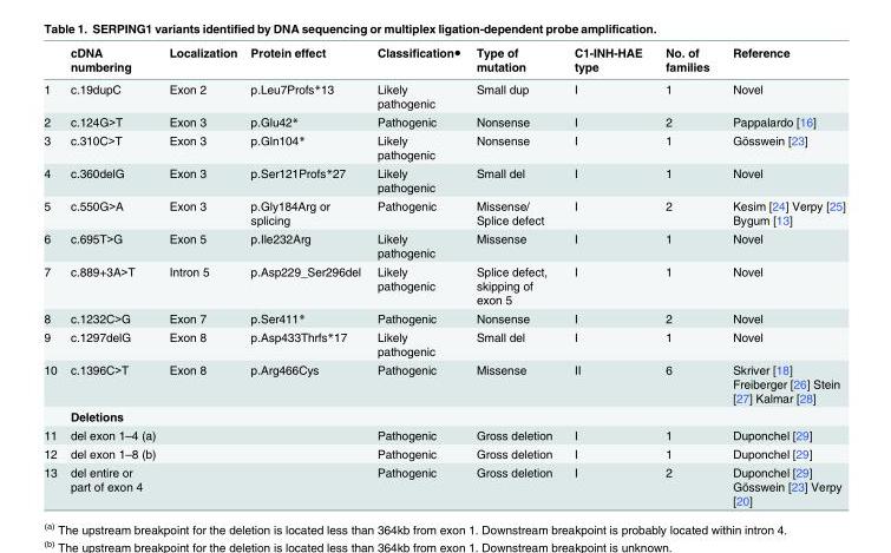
<table><thead><tr><td></td><td>cDNA numbering</td><td>Localization</td><td>Protein effect</td><td>Classification●</td><td>Type of mutation</td><td>C1-INH-HAE type</td><td>No. of families</td><td>Reference</td></tr></thead><tbody><tr><td>1</td><td>c.19dupC</td><td>Exon 2</td><td>p.Leu7Profs*13</td><td>Likely pathogenic</td><td>Small dup</td><td>I</td><td>1</td><td>Novel</td></tr><tr><td>2</td><td>c.124G&gt;T</td><td>Exon 3</td><td>p.Glu42*</td><td>Pathogenic</td><td>Nonsense</td><td>I</td><td>2</td><td>Pappalardo [16]</td></tr><tr><td>3</td><td>c.310C&gt;T</td><td>Exon 3</td><td>p.Gln104*</td><td>Likely pathogenic</td><td>Nonsense</td><td>I</td><td>1</td><td>Gösswein [23]</td></tr><tr><td>4</td><td>c.360delG</td><td>Exon 3</td><td>p.Ser121Profs*27</td><td>Likely pathogenic</td><td>Small del</td><td>I</td><td>1</td><td>Novel</td></tr><tr><td>5</td><td>c.550G&gt;A</td><td>Exon 3</td><td>p.Gly184Arg or splicing</td><td>Pathogenic</td><td>Missense/ Splice defect</td><td>I</td><td>2</td><td>Kesim [24] Verpy [25] Bygum [13]</td></tr><tr><td>6</td><td>c.695T&gt;G</td><td>Exon 5</td><td>p.Ile232Arg</td><td>Likely pathogenic</td><td>Missense</td><td>I</td><td>1</td><td>Novel</td></tr><tr><td>7</td><td>c.889+3A&gt;T</td><td>Intron 5</td><td>p.Asp229_Ser296del</td><td>Likely pathogenic</td><td>Splice defect, skipping of exon 5</td><td>I</td><td>1</td><td>Novel</td></tr><tr><td>8</td><td>c.1232C&gt;G</td><td>Exon 7</td><td>p.Ser411*</td><td>Pathogenic</td><td>Nonsense</td><td>I</td><td>2</td><td>Novel</td></tr><tr><td>9</td><td>c.1297delG</td><td>Exon 8</td><td>p.Asp433Thrfs*17</td><td>Likely pathogenic</td><td>Small del</td><td>I</td><td>1</td><td>Novel</td></tr><tr><td rowspan="2">10</td><td>c.1396C&gt;T</td><td>Exon 8</td><td>p.Arg466Cys</td><td>Pathogenic</td><td>Missense</td><td>II</td><td>6</td><td>Skriver [18] Freiberger [26] Stein [27] Kalmar [28]</td></tr><tr><td>Deletions</td><td></td><td></td><td></td><td></td><td></td><td></td><td></td></tr><tr><td>11</td><td>del exon 1–4 (a)</td><td></td><td></td><td>Pathogenic</td><td>Gross deletion</td><td>I</td><td>1</td><td>Duponchel [29]</td></tr><tr><td>12</td><td>del exon 1–8 (b)</td><td></td><td></td><td>Pathogenic</td><td>Gross deletion</td><td>I</td><td>1</td><td>Duponchel [29]</td></tr><tr><td>13</td><td>del entire or part of exon 4</td><td></td><td></td><td>Pathogenic</td><td>Gross deletion</td><td>I</td><td>2</td><td>Duponchel [29] Gösswein [23] Verpy [20]</td></tr></tbody></table>